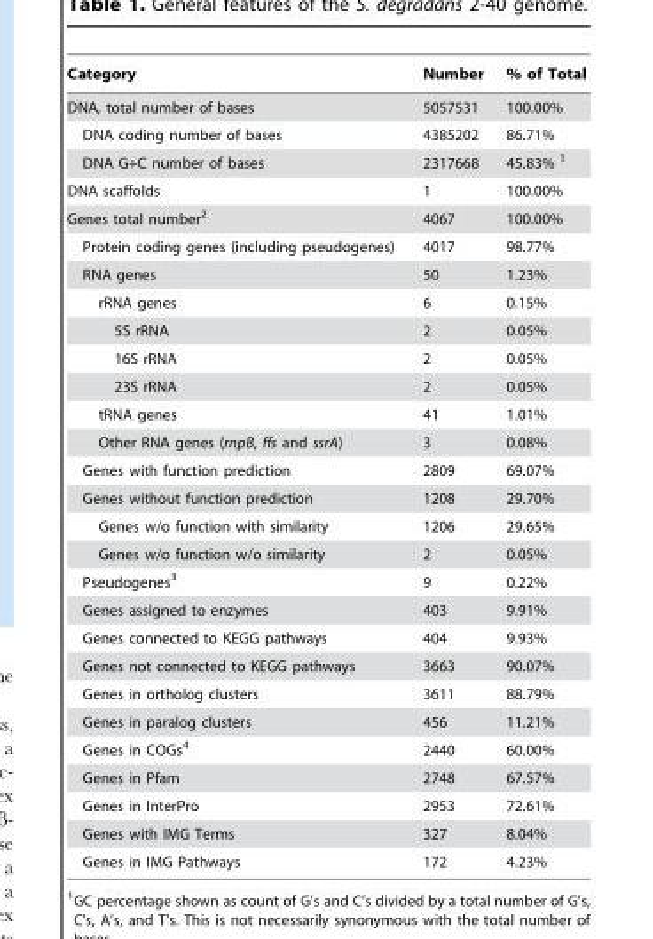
<table><thead><tr><td>Category</td><td>Number</td><td>% of Total</td></tr></thead><tbody><tr><td>DNA, total number of bases</td><td>5057531</td><td>100.00%</td></tr><tr><td>DNA coding number of bases</td><td>4385202</td><td>86.71%</td></tr><tr><td>DNA G+C number of bases</td><td>2317668</td><td>45.83% 1</td></tr><tr><td>DNA scaffolds</td><td>1</td><td>100.00%</td></tr><tr><td>Genes total number<sup>2</sup></td><td>4067</td><td>100.00%</td></tr><tr><td>Protein coding genes (including pseudogenes)</td><td>4017</td><td>98.77%</td></tr><tr><td>RNA genes</td><td>50</td><td>1.23%</td></tr><tr><td>rRNA genes</td><td>6</td><td>0.15%</td></tr><tr><td>5S rRNA</td><td>2</td><td>0.05%</td></tr><tr><td>16S rRNA</td><td>2</td><td>0.05%</td></tr><tr><td>23S rRNA</td><td>2</td><td>0.05%</td></tr><tr><td>tRNA genes</td><td>41</td><td>1.01%</td></tr><tr><td>Other RNA genes (rnpB, ffs and ssrA)</td><td>3</td><td>0.08%</td></tr><tr><td>Genes with function prediction</td><td>2809</td><td>69.07%</td></tr><tr><td>Genes without function prediction</td><td>1208</td><td>29.70%</td></tr><tr><td>Genes w/o function with similarity</td><td>1206</td><td>29.65%</td></tr><tr><td>Genes w/o function w/o similarity</td><td>2</td><td>0.05%</td></tr><tr><td>Pseudogenes<sup>3</sup></td><td>9</td><td>0.22%</td></tr><tr><td>Genes assigned to enzymes</td><td>403</td><td>9.91%</td></tr><tr><td>Genes connected to KEGG pathways</td><td>404</td><td>9.93%</td></tr><tr><td>Genes not connected to KEGG pathways</td><td>3663</td><td>90.07%</td></tr><tr><td>Genes in ortholog clusters</td><td>3611</td><td>88.79%</td></tr><tr><td>Genes in paralog clusters</td><td>456</td><td>11.21%</td></tr><tr><td>Genes in COGs<sup>4</sup></td><td>2440</td><td>60.00%</td></tr><tr><td>Genes in Pfam</td><td>2748</td><td>67.57%</td></tr><tr><td>Genes in InterPro</td><td>2953</td><td>72.61%</td></tr><tr><td>Genes with IMG Terms</td><td>327</td><td>8.04%</td></tr><tr><td>Genes in IMG Pathways</td><td>172</td><td>4.23%</td></tr></tbody></table>